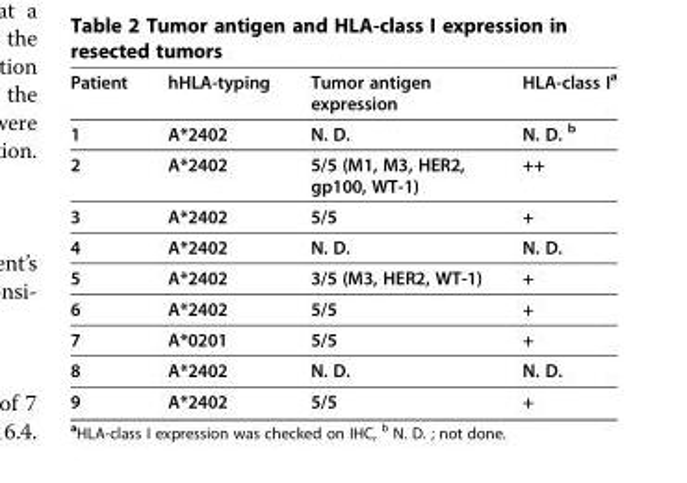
<table><thead><tr><td>Patient</td><td>hHLA-typing</td><td>Tumor antigen expression</td><td>HLA-class I<sup>a</sup></td></tr></thead><tbody><tr><td>1</td><td>A*2402</td><td>N. D.</td><td>N. D. <sup>b</sup></td></tr><tr><td>2</td><td>A*2402</td><td>5/5 (M1, M3, HER2, gp100, WT-1)</td><td>++</td></tr><tr><td>3</td><td>A*2402</td><td>5/5</td><td>+</td></tr><tr><td>4</td><td>A*2402</td><td>N. D.</td><td>N. D.</td></tr><tr><td>5</td><td>A*2402</td><td>3/5 (M3, HER2, WT-1)</td><td>+</td></tr><tr><td>6</td><td>A*2402</td><td>5/5</td><td>+</td></tr><tr><td>7</td><td>A*0201</td><td>5/5</td><td>+</td></tr><tr><td>8</td><td>A*2402</td><td>N. D.</td><td>N. D.</td></tr><tr><td>9</td><td>A*2402</td><td>5/5</td><td>+</td></tr></tbody></table>